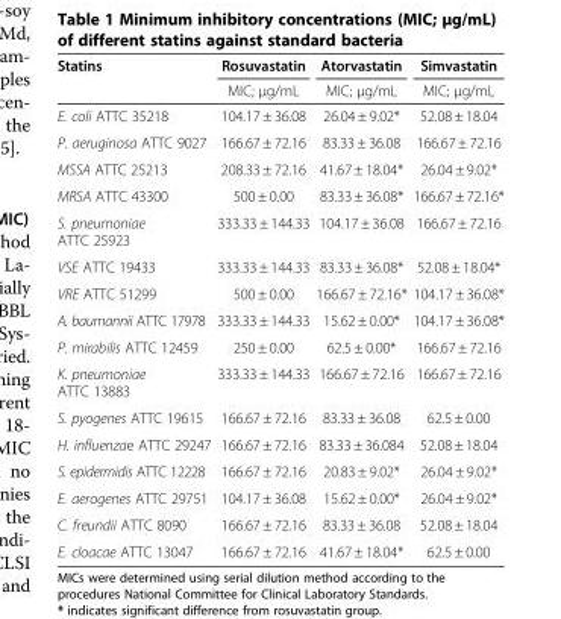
<table><thead><tr><td rowspan="2">Statins</td><td rowspan="2">Rosuvastatin MIC; μg/mL</td><td rowspan="2">Atorvastatin MIC; μg/mL</td><td rowspan="2">Simvastatin MIC; μg/mL</td></tr><tr></tr></thead><tbody><tr><td>E. coli ATTC 35218</td><td>104.17 ± 36.08</td><td>26.04 ± 9.02*</td><td>52.08 ± 18.04</td></tr><tr><td>P. aeruginosa ATTC 9027</td><td>166.67 ± 72.16</td><td>83.33 ± 36.08</td><td>166.67 ± 72.16</td></tr><tr><td>MSSA ATTC 25213</td><td>208.33 ± 72.16</td><td>41.67 ± 18.04*</td><td>26.04 ± 9.02*</td></tr><tr><td>MRSA ATTC 43300</td><td>500 ± 0.00</td><td>83.33 ± 36.08*</td><td>166.67 ± 72.16*</td></tr><tr><td>S. pneumoniae ATTC 25923</td><td>333.33 ± 144.33</td><td>104.17 ± 36.08</td><td>166.67 ± 72.16</td></tr><tr><td>VSE ATTC 19433</td><td>333.33 ± 144.33</td><td>83.33 ± 36.08*</td><td>52.08 ± 18.04*</td></tr><tr><td>VRE ATTC 51299</td><td>500 ± 0.00</td><td>166.67 ± 72.16*</td><td>104.17 ± 36.08*</td></tr><tr><td>A. baumannii ATTC 17978</td><td>333.33 ± 144.33</td><td>15.62 ± 0.00*</td><td>104.17 ± 36.08*</td></tr><tr><td>P. mirabilis ATTC 12459</td><td>250 ± 0.00</td><td>62.5 ± 0.00*</td><td>166.67 ± 72.16</td></tr><tr><td>K. pneumoniae ATTC 13883</td><td>333.33 ± 144.33</td><td>166.67 ± 72.16</td><td>166.67 ± 72.16</td></tr><tr><td>S. pyogenes ATTC 19615</td><td>166.67 ± 72.16</td><td>83.33 ± 36.08</td><td>62.5 ± 0.00</td></tr><tr><td>H. influenzae ATTC 29247</td><td>166.67 ± 72.16</td><td>83.33 ± 36.084</td><td>52.08 ± 18.04</td></tr><tr><td>S. epidermidis ATTC 12228</td><td>166.67 ± 72.16</td><td>20.83 ± 9.02*</td><td>26.04 ± 9.02*</td></tr><tr><td>E. aerogenes ATTC 29751</td><td>104.17 ± 36.08</td><td>15.62 ± 0.00*</td><td>26.04 ± 9.02*</td></tr><tr><td>C. freundii ATTC 8090</td><td>166.67 ± 72.16</td><td>83.33 ± 36.08</td><td>52.08 ± 18.04</td></tr><tr><td>E. cloacae ATTC 13047</td><td>166.67 ± 72.16</td><td>41.67 ± 18.04*</td><td>62.5 ± 0.00</td></tr></tbody></table>